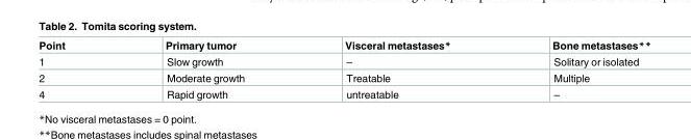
<table><thead><tr><td>Point</td><td>Primary tumor</td><td>Visceral metastases*</td><td>Bone metastases**</td></tr></thead><tbody><tr><td>1</td><td>Slow growth</td><td>–</td><td>Solitary or isolated</td></tr><tr><td>2</td><td>Moderate growth</td><td>Treatable</td><td>Multiple</td></tr><tr><td>4</td><td>Rapid growth</td><td>untreatable</td><td>–</td></tr></tbody></table>